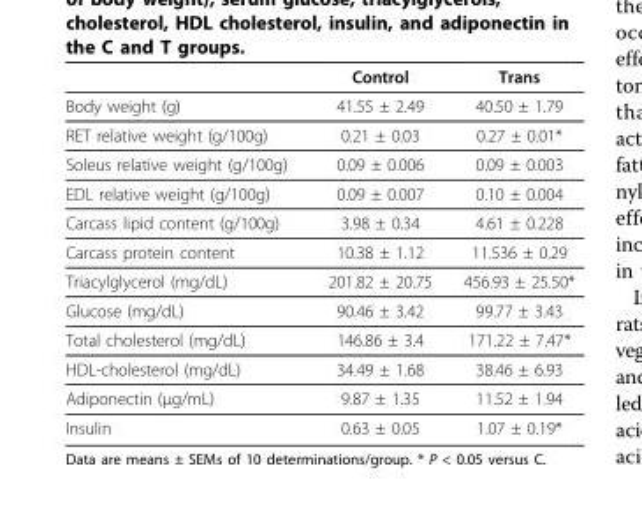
<table><thead><tr><td></td><td>Control</td><td>Trans</td></tr></thead><tbody><tr><td>Body weight (g)</td><td>41.55 ± 2.49</td><td>40.50 ± 1.79</td></tr><tr><td>RET relative weight (g/100g)</td><td>0.21 ± 0.03</td><td>0.27 ± 0.01*</td></tr><tr><td>Soleus relative weight (g/100g)</td><td>0.09 ± 0.006</td><td>0.09 ± 0.003</td></tr><tr><td>EDL relative weight (g/100g)</td><td>0.09 ± 0.007</td><td>0.10 ± 0.004</td></tr><tr><td>Carcass lipid content (g/100g)</td><td>3.98 ± 0.34</td><td>4.61 ± 0.228</td></tr><tr><td>Carcass protein content</td><td>10.38 ± 1.12</td><td>11.536 ± 0.29</td></tr><tr><td>Triacylglycerol (mg/dL)</td><td>201.82 ± 20.75</td><td>456.93 ± 25.50*</td></tr><tr><td>Glucose (mg/dL)</td><td>90.46 ± 3.42</td><td>99.77 ± 3.43</td></tr><tr><td>Total cholesterol (mg/dL)</td><td>146.86 ± 3.4</td><td>171.22 ± 7.47*</td></tr><tr><td>HDL-cholesterol (mg/dL)</td><td>34.49 ± 1.68</td><td>38.46 ± 6.93</td></tr><tr><td>Adiponectin (μg/mL)</td><td>9.87 ± 1.35</td><td>11.52 ± 1.94</td></tr><tr><td>Insulin</td><td>0.63 ± 0.05</td><td>1.07 ± 0.19*</td></tr></tbody></table>